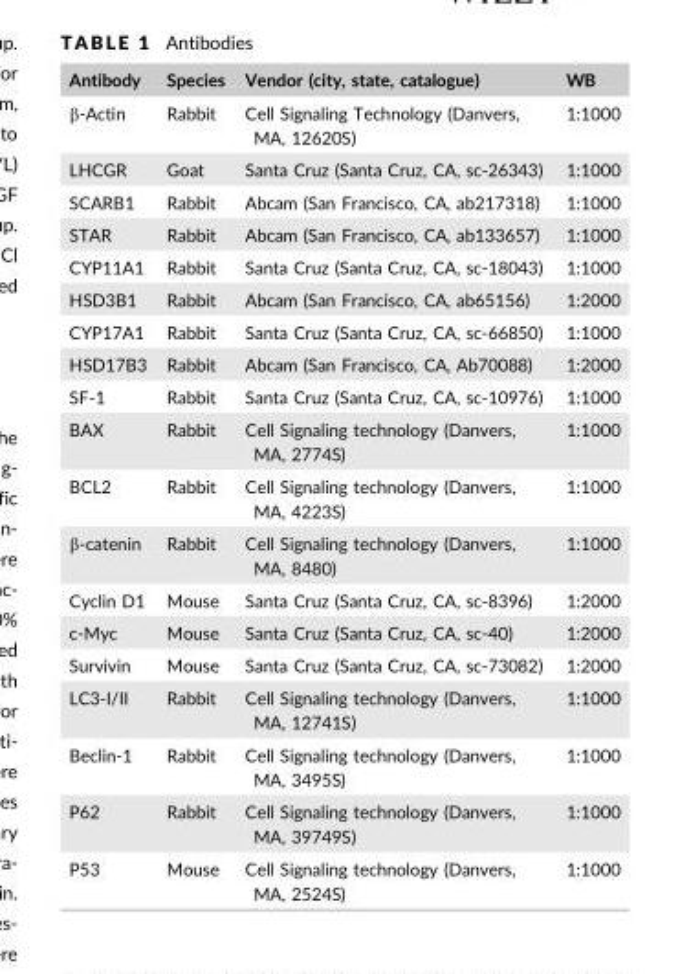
<table><thead><tr><td>Antibody</td><td>Species</td><td>Vendor (city, state, catalogue)</td><td>WB</td></tr></thead><tbody><tr><td>β-Actin</td><td>Rabbit</td><td>Cell Signaling Technology (Danvers, MA, 12620S)</td><td>1:1000</td></tr><tr><td>LHCGR</td><td>Goat</td><td>Santa Cruz (Santa Cruz, CA, sc-26343)</td><td>1:1000</td></tr><tr><td>SCARB1</td><td>Rabbit</td><td>Abcam (San Francisco, CA, ab217318)</td><td>1:1000</td></tr><tr><td>STAR</td><td>Rabbit</td><td>Abcam (San Francisco, CA, ab133657)</td><td>1:1000</td></tr><tr><td>CYP11A1</td><td>Rabbit</td><td>Santa Cruz (Santa Cruz, CA, sc-18043)</td><td>1:1000</td></tr><tr><td>HSD3B1</td><td>Rabbit</td><td>Abcam (San Francisco, CA, ab65156)</td><td>1:2000</td></tr><tr><td>CYP17A1</td><td>Rabbit</td><td>Santa Cruz (Santa Cruz, CA, sc-66850)</td><td>1:1000</td></tr><tr><td>HSD17B3</td><td>Rabbit</td><td>Abcam (San Francisco, CA, Ab70088)</td><td>1:2000</td></tr><tr><td>SF-1</td><td>Rabbit</td><td>Santa Cruz (Santa Cruz, CA, sc-10976)</td><td>1:1000</td></tr><tr><td>BAX</td><td>Rabbit</td><td>Cell Signaling technology (Danvers, MA, 2774S)</td><td>1:1000</td></tr><tr><td>BCL2</td><td>Rabbit</td><td>Cell Signaling technology (Danvers, MA, 4223S)</td><td>1:1000</td></tr><tr><td>β-catenin</td><td>Rabbit</td><td>Cell Signaling technology (Danvers, MA, 8480)</td><td>1:1000</td></tr><tr><td>Cyclin D1</td><td>Mouse</td><td>Santa Cruz (Santa Cruz, CA, sc-8396)</td><td>1:2000</td></tr><tr><td>c-Myc</td><td>Mouse</td><td>Santa Cruz (Santa Cruz, CA, sc-40)</td><td>1:2000</td></tr><tr><td>Survivin</td><td>Mouse</td><td>Santa Cruz (Santa Cruz, CA, sc-73082)</td><td>1:2000</td></tr><tr><td>LC3-I/II</td><td>Rabbit</td><td>Cell Signaling technology (Danvers, MA, 12741S)</td><td>1:1000</td></tr><tr><td>Beclin-1</td><td>Rabbit</td><td>Cell Signaling technology (Danvers, MA, 3495S)</td><td>1:1000</td></tr><tr><td>P62</td><td>Rabbit</td><td>Cell Signaling technology (Danvers, MA, 39749S)</td><td>1:1000</td></tr><tr><td>P53</td><td>Mouse</td><td>Cell Signaling technology (Danvers, MA, 2524S)</td><td>1:1000</td></tr></tbody></table>